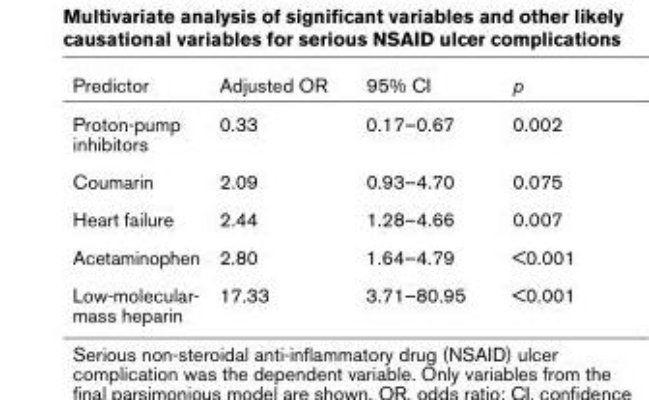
<table><thead><tr><td>Predictor</td><td>Adjusted OR</td><td>95% CI</td><td>p</td></tr></thead><tbody><tr><td>Proton-pump inhibitors</td><td>0.33</td><td>0.17–0.67</td><td>0.002</td></tr><tr><td>Coumarin</td><td>2.09</td><td>0.93–4.70</td><td>0.075</td></tr><tr><td>Heart failure</td><td>2.44</td><td>1.28–4.66</td><td>0.007</td></tr><tr><td>Acetaminophen</td><td>2.80</td><td>1.64–4.79</td><td>&lt;0.001</td></tr><tr><td>Low-molecular- mass heparin</td><td>17.33</td><td>3.71–80.95</td><td>&lt;0.001</td></tr></tbody></table>